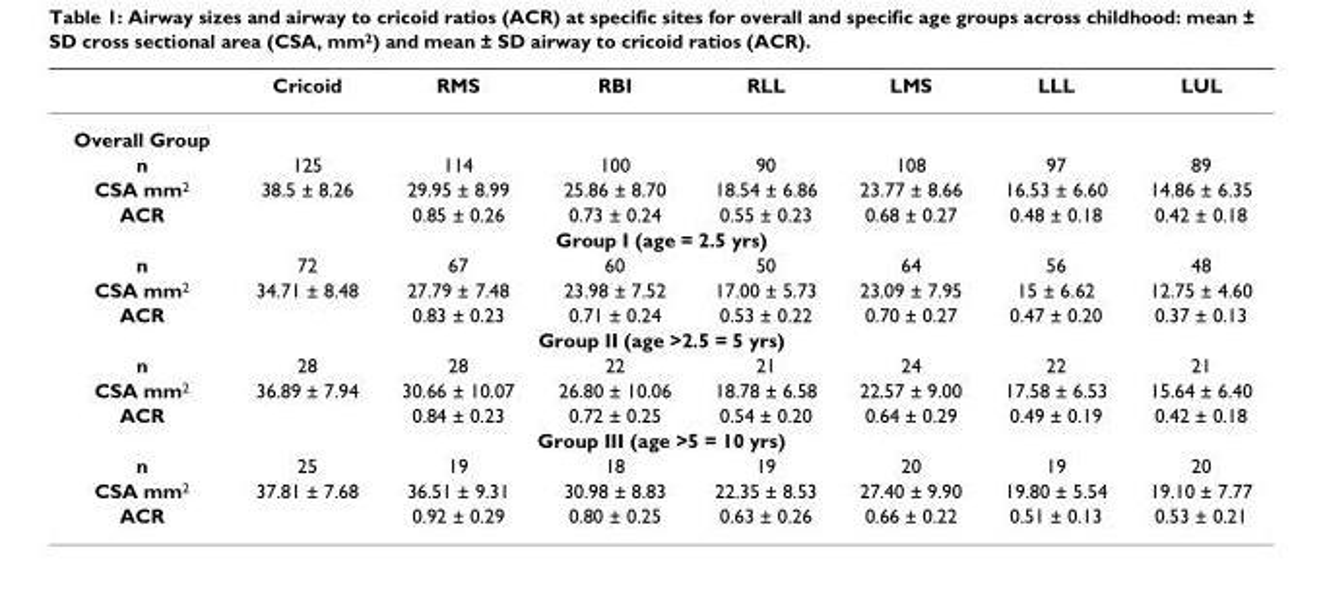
<table><thead><tr><td></td><td>Cricoid</td><td>RMS</td><td>RBI</td><td>RLL</td><td>LMS</td><td>LLL</td><td>LUL</td></tr></thead><tbody><tr><td colspan="8">Overall Group</td></tr><tr><td>n</td><td>125</td><td>114</td><td>100</td><td>90</td><td>108</td><td>97</td><td>89</td></tr><tr><td>CSA mm2</td><td>38.5 ± 8.26</td><td>29.95 ± 8.99</td><td>25.86 ± 8.70</td><td>18.54 ± 6.86</td><td>23.77 ± 8.66</td><td>16.53 ± 6.60</td><td>14.86 ± 6.35</td></tr><tr><td>ACR</td><td></td><td>0.85 ± 0.26</td><td>0.73 ± 0.24</td><td>0.55 ± 0.23</td><td>0.68 ± 0.27</td><td>0.48 ± 0.18</td><td>0.42 ± 0.18</td></tr><tr><td colspan="8">Group I (age = 2.5 yrs)</td></tr><tr><td>n</td><td>72</td><td>67</td><td>60</td><td>50</td><td>64</td><td>56</td><td>48</td></tr><tr><td>CSA mm2</td><td>34.71 ± 8.48</td><td>27.79 ± 7.48</td><td>23.98 ± 7.52</td><td>17.00 ± 5.73</td><td>23.09 ± 7.95</td><td>15 ± 6.62</td><td>12.75 ± 4.60</td></tr><tr><td>ACR</td><td></td><td>0.83 ± 0.23</td><td>0.71 ± 0.24</td><td>0.53 ± 0.22</td><td>0.70 ± 0.27</td><td>0.47 ± 0.20</td><td>0.37 ± 0.13</td></tr><tr><td colspan="8">Group II (age &gt;2.5 = 5 yrs)</td></tr><tr><td>n</td><td>28</td><td>28</td><td>22</td><td>21</td><td>24</td><td>22</td><td>21</td></tr><tr><td>CSA mm2</td><td>36.89 ± 7.94</td><td>30.66 ± 10.07</td><td>26.80 ± 10.06</td><td>18.78 ± 6.58</td><td>22.57 ± 9.00</td><td>17.58 ± 6.53</td><td>15.64 ± 6.40</td></tr><tr><td>ACR</td><td></td><td>0.84 ± 0.23</td><td>0.72 ± 0.25</td><td>0.54 ± 0.20</td><td>0.64 ± 0.29</td><td>0.49 ± 0.19</td><td>0.42 ± 0.18</td></tr><tr><td colspan="8">Group III (age &gt;5 = 10 yrs)</td></tr><tr><td>n</td><td>25</td><td>19</td><td>18</td><td>19</td><td>20</td><td>19</td><td>20</td></tr><tr><td>CSA mm2</td><td>37.81 ± 7.68</td><td>36.51 ± 9.31</td><td>30.98 ± 8.83</td><td>22.35 ± 8.53</td><td>27.40 ± 9.90</td><td>19.80 ± 5.54</td><td>19.10 ± 7.77</td></tr><tr><td>ACR</td><td></td><td>0.92 ± 0.29</td><td>0.80 ± 0.25</td><td>0.63 ± 0.26</td><td>0.66 ± 0.22</td><td>0.51 ± 0.13</td><td>0.53 ± 0.21</td></tr></tbody></table>